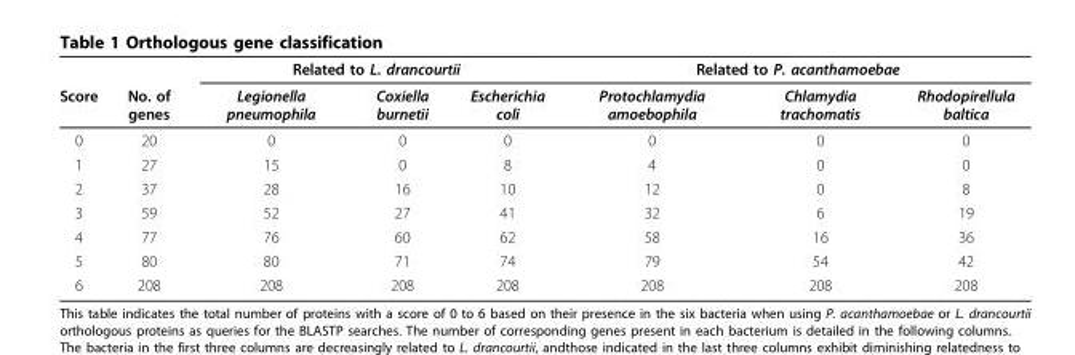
<table><thead><tr><td rowspan="2">Score</td><td rowspan="2">No. of genes</td><td colspan="3">Related to L. drancourtii</td><td colspan="3">Related to P. acanthamoebae</td></tr><tr><td>Legionella pneumophila</td><td>Coxiella burnetii</td><td>Escherichia coli</td><td>Protochlamydia amoebophila</td><td>Chlamydia trachomatis</td><td>Rhodopirellula baltica</td></tr></thead><tbody><tr><td>0</td><td>20</td><td>0</td><td>0</td><td>0</td><td>0</td><td>0</td><td>0</td></tr><tr><td>1</td><td>27</td><td>15</td><td>0</td><td>8</td><td>4</td><td>0</td><td>0</td></tr><tr><td>2</td><td>37</td><td>28</td><td>16</td><td>10</td><td>12</td><td>0</td><td>8</td></tr><tr><td>3</td><td>59</td><td>52</td><td>27</td><td>41</td><td>32</td><td>6</td><td>19</td></tr><tr><td>4</td><td>77</td><td>76</td><td>60</td><td>62</td><td>58</td><td>16</td><td>36</td></tr><tr><td>5</td><td>80</td><td>80</td><td>71</td><td>74</td><td>79</td><td>54</td><td>42</td></tr><tr><td>6</td><td>208</td><td>208</td><td>208</td><td>208</td><td>208</td><td>208</td><td>208</td></tr></tbody></table>